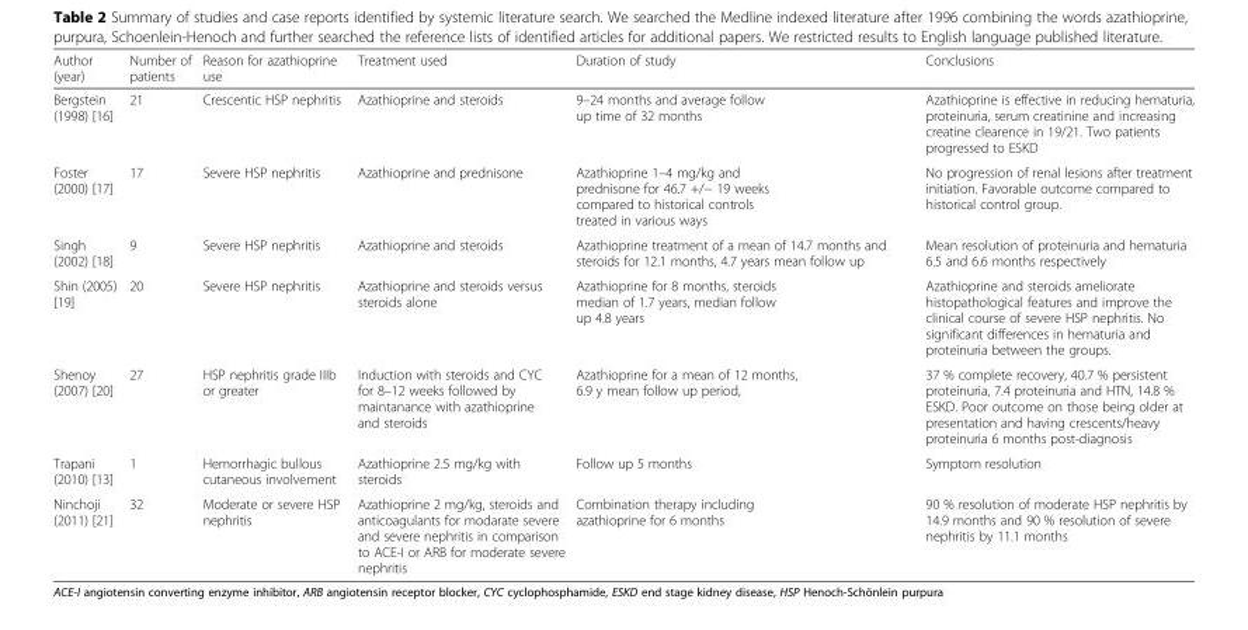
<table><thead><tr><td>Author (year)</td><td>Number of patients</td><td>Reason for azathioprine use</td><td>Treatment used</td><td>Duration of study</td><td>Conclusions</td></tr></thead><tbody><tr><td>Bergstein (1998) [16]</td><td>21</td><td>Crescentic HSP nephritis</td><td>Azathioprine and steroids</td><td>9–24 months and average follow up time of 32 months</td><td>Azathioprine is effective in reducing hematuria, proteinuria, serum creatinine and increasing creatine clearence in 19/21. Two patients progressed to ESKD</td></tr><tr><td>Foster (2000) [17]</td><td>17</td><td>Severe HSP nephritis</td><td>Azathioprine and prednisone</td><td>Azathioprine 1–4 mg/kg and prednisone for 46.7 +/− 19 weeks compared to historical controls treated in various ways</td><td>No progression of renal lesions after treatment initiation. Favorable outcome compared to historical control group.</td></tr><tr><td>Singh (2002) [18]</td><td>9</td><td>Severe HSP nephritis</td><td>Azathioprine and steroids</td><td>Azathioprine treatment of a mean of 14.7 months and steroids for 12.1 months, 4.7 years mean follow up</td><td>Mean resolution of proteinuria and hematuria 6.5 and 6.6 months respectively</td></tr><tr><td>Shin (2005) [19]</td><td>20</td><td>Severe HSP nephritis</td><td>Azathioprine and steroids versus steroids alone</td><td>Azathioprine for 8 months, steroids median of 1.7 years, median follow up 4.8 years</td><td>Azathioprine and steroids ameliorate histopathological features and improve the clinical course of severe HSP nephritis. No significant differences in hematuria and proteinuria between the groups.</td></tr><tr><td>Shenoy (2007) [20]</td><td>27</td><td>HSP nephritis grade IIIb or greater</td><td>Induction with steroids and CYC for 8–12 weeks followed by maintanance with azathioprine and steroids</td><td>Azathioprine for a mean of 12 months, 6.9 y mean follow up period,</td><td>37 % complete recovery, 40.7 % persistent proteinuria, 7.4 proteinuria and HTN, 14.8 % ESKD. Poor outcome on those being older at presentation and having crescents/heavy proteinuria 6 months post-diagnosis</td></tr><tr><td>Trapani (2010) [13]</td><td>1</td><td>Hemorrhagic bullous cutaneous involvement</td><td>Azathioprine 2.5 mg/kg with steroids</td><td>Follow up 5 months</td><td>Symptom resolution</td></tr><tr><td>Ninchoji (2011) [21]</td><td>32</td><td>Moderate or severe HSP nephritis</td><td>Azathioprine 2 mg/kg, steroids and anticoagulants for modarate severe and severe nephritis in comparison to ACE-I or ARB for moderate severe nephritis</td><td>Combination therapy including azathioprine for 6 months</td><td>90 % resolution of moderate HSP nephritis by 14.9 months and 90 % resolution of severe nephritis by 11.1 months</td></tr></tbody></table>